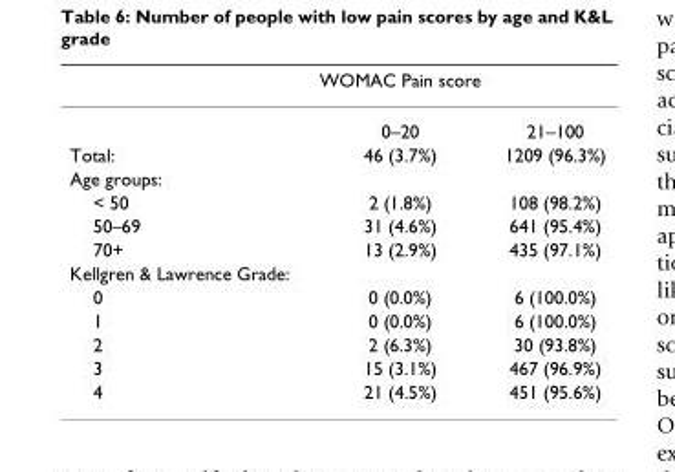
<table><thead><tr><td></td><td>WOMAC Pain score</td><td></td></tr></thead><tbody><tr><td></td><td>0–20</td><td>21–100</td></tr><tr><td>Total:</td><td>46 (3.7%)</td><td>1209 (96.3%)</td></tr><tr><td colspan="3">Age groups:</td></tr><tr><td>&lt; 50</td><td>2 (1.8%)</td><td>108 (98.2%)</td></tr><tr><td>50–69</td><td>31 (4.6%)</td><td>641 (95.4%)</td></tr><tr><td>70+</td><td>13 (2.9%)</td><td>435 (97.1%)</td></tr><tr><td colspan="3">Kellgren &amp; Lawrence Grade:</td></tr><tr><td>0</td><td>0 (0.0%)</td><td>6 (100.0%)</td></tr><tr><td>1</td><td>0 (0.0%)</td><td>6 (100.0%)</td></tr><tr><td>2</td><td>2 (6.3%)</td><td>30 (93.8%)</td></tr><tr><td>3</td><td>15 (3.1%)</td><td>467 (96.9%)</td></tr><tr><td>4</td><td>21 (4.5%)</td><td>451 (95.6%)</td></tr></tbody></table>